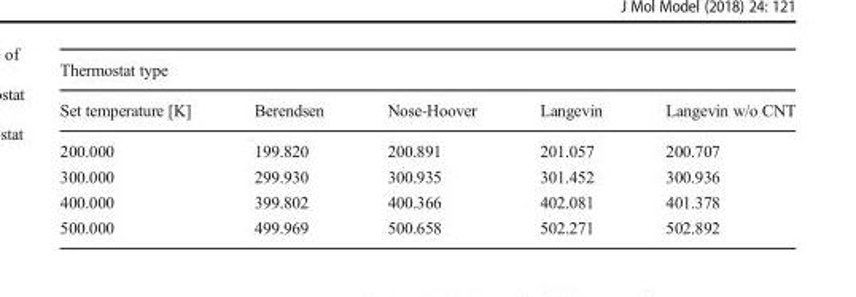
<table><thead><tr><td colspan="5">Thermostat type</td></tr><tr><td>Set temperature [K]</td><td>Berendsen</td><td>Nose-Hoover</td><td>Langevin</td><td>Langevin w/o CNT</td></tr></thead><tbody><tr><td>200.000</td><td>199.820</td><td>200.891</td><td>201.057</td><td>200.707</td></tr><tr><td>300.000</td><td>299.930</td><td>300.935</td><td>301.452</td><td>300.936</td></tr><tr><td>400.000</td><td>399.802</td><td>400.366</td><td>402.081</td><td>401.378</td></tr><tr><td>500.000</td><td>499.969</td><td>500.658</td><td>502.271</td><td>502.892</td></tr></tbody></table>